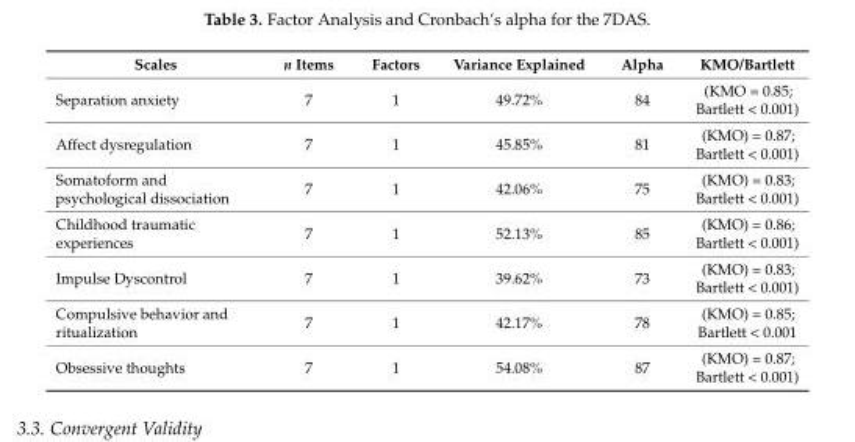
<table><thead><tr><td>Scales</td><td>n Items</td><td>Factors</td><td>Variance Explained</td><td>Alpha</td><td>KMO/Bartlett</td></tr></thead><tbody><tr><td>Separation anxiety</td><td>7</td><td>1</td><td>49.72%</td><td>84</td><td>(KMO = 0.85; Bartlett &lt; 0.001)</td></tr><tr><td>Affect dysregulation</td><td>7</td><td>1</td><td>45.85%</td><td>81</td><td>(KMO) = 0.87; Bartlett &lt; 0.001)</td></tr><tr><td>Somatoform and psychological dissociation</td><td>7</td><td>1</td><td>42.06%</td><td>75</td><td>(KMO) = 0.83; Bartlett &lt; 0.001)</td></tr><tr><td>Childhood traumatic experiences</td><td>7</td><td>1</td><td>52.13%</td><td>85</td><td>(KMO) = 0.86; Bartlett &lt; 0.001)</td></tr><tr><td>Impulse Dyscontrol</td><td>7</td><td>1</td><td>39.62%</td><td>73</td><td>(KMO) = 0.83; Bartlett &lt; 0.001)</td></tr><tr><td>Compulsive behavior and ritualization</td><td>7</td><td>1</td><td>42.17%</td><td>78</td><td>(KMO) = 0.85; Bartlett &lt; 0.001</td></tr><tr><td>Obsessive thoughts</td><td>7</td><td>1</td><td>54.08%</td><td>87</td><td>(KMO) = 0.87; Bartlett &lt; 0.001)</td></tr></tbody></table>